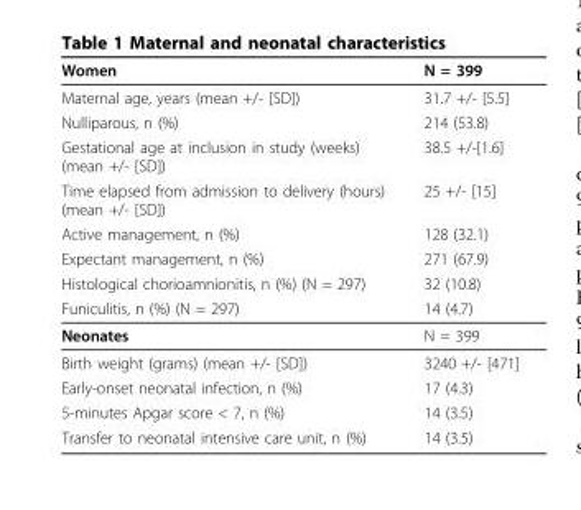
<table><thead><tr><td>Women</td><td>N = 399</td></tr></thead><tbody><tr><td>Maternal age, years (mean +/- [SD])</td><td>31.7 +/- [5.5]</td></tr><tr><td>Nulliparous, n (%)</td><td>214 (53.8)</td></tr><tr><td>Gestational age at inclusion in study (weeks) (mean +/- [SD])</td><td>38.5 +/-[1.6]</td></tr><tr><td>Time elapsed from admission to delivery (hours) (mean +/- [SD])</td><td>25 +/- [15]</td></tr><tr><td>Active management, n (%)</td><td>128 (32.1)</td></tr><tr><td>Expectant management, n (%)</td><td>271 (67.9)</td></tr><tr><td>Histological chorioamnionitis, n (%) (N = 297)</td><td>32 (10.8)</td></tr><tr><td>Funiculitis, n (%) (N = 297)</td><td>14 (4.7)</td></tr><tr><td>Neonates</td><td>N = 399</td></tr><tr><td>Birth weight (grams) (mean +/- [SD])</td><td>3240 +/- [471]</td></tr><tr><td>Early-onset neonatal infection, n (%)</td><td>17 (4.3)</td></tr><tr><td>5-minutes Apgar score &lt; 7, n (%)</td><td>14 (3.5)</td></tr><tr><td>Transfer to neonatal intensive care unit, n (%)</td><td>14 (3.5)</td></tr></tbody></table>